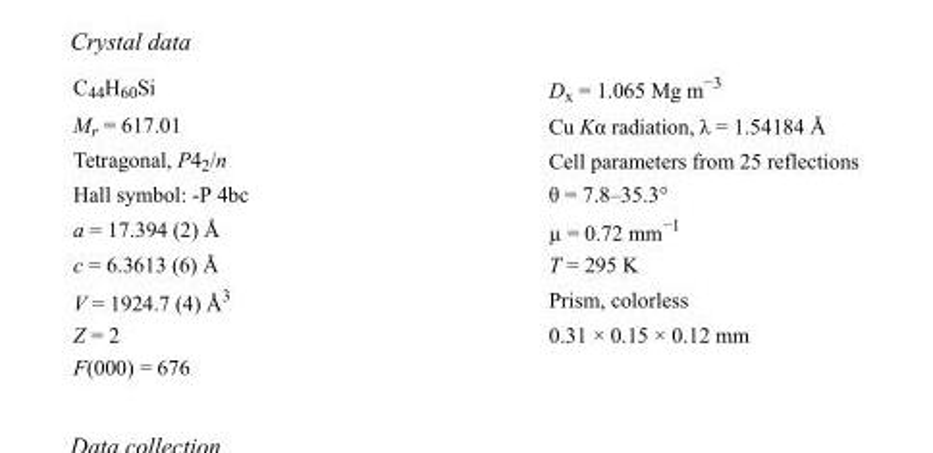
<table><tbody><tr><td>C<sub>44</sub>H<sub>60</sub>Si</td><td>D<sub>x</sub> = 1.065 Mg m<sup>−3</sup></td></tr><tr><td>M<sub>r</sub> = 617.01</td><td>Cu Kα radiation, λ = 1.54184 Å</td></tr><tr><td>Tetragonal, P4<sub>2</sub>/n</td><td>Cell parameters from 25 reflections</td></tr><tr><td>Hall symbol: -P 4bc</td><td>θ = 7.8–35.3°</td></tr><tr><td>a = 17.394 (2) Å</td><td>µ = 0.72 mm<sup>−1</sup></td></tr><tr><td>c = 6.3613 (6) Å</td><td>T = 295 K</td></tr><tr><td>V = 1924.7 (4) Å<sup>3</sup></td><td>Prism, colorless</td></tr><tr><td>Z = 2</td><td>0.31 × 0.15 × 0.12 mm</td></tr><tr><td>F(000) = 676</td><td></td></tr></tbody></table>